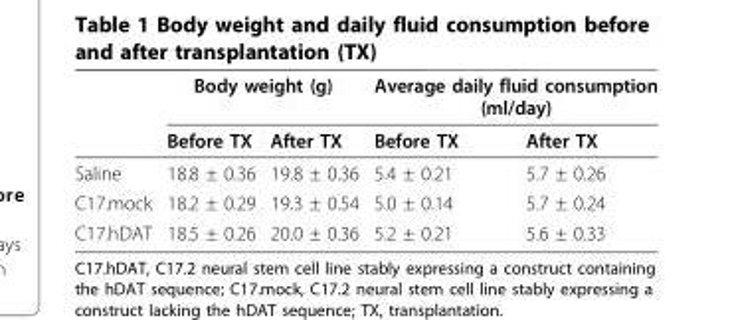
<table><thead><tr><td rowspan="2"></td><td colspan="2">Body weight (g)</td><td colspan="2">Average daily fluid consumption (ml/day)</td></tr><tr><td>Before TX</td><td>After TX</td><td>Before TX</td><td>After TX</td></tr></thead><tbody><tr><td>Saline</td><td>18.8 ± 0.36</td><td>19.8 ± 0.36</td><td>5.4 ± 0.21</td><td>5.7 ± 0.26</td></tr><tr><td>C17.mock</td><td>18.2 ± 0.29</td><td>19.3 ± 0.54</td><td>5.0 ± 0.14</td><td>5.7 ± 0.24</td></tr><tr><td>C17.hDAT</td><td>18.5 ± 0.26</td><td>20.0 ± 0.36</td><td>5.2 ± 0.21</td><td>5.6 ± 0.33</td></tr></tbody></table>